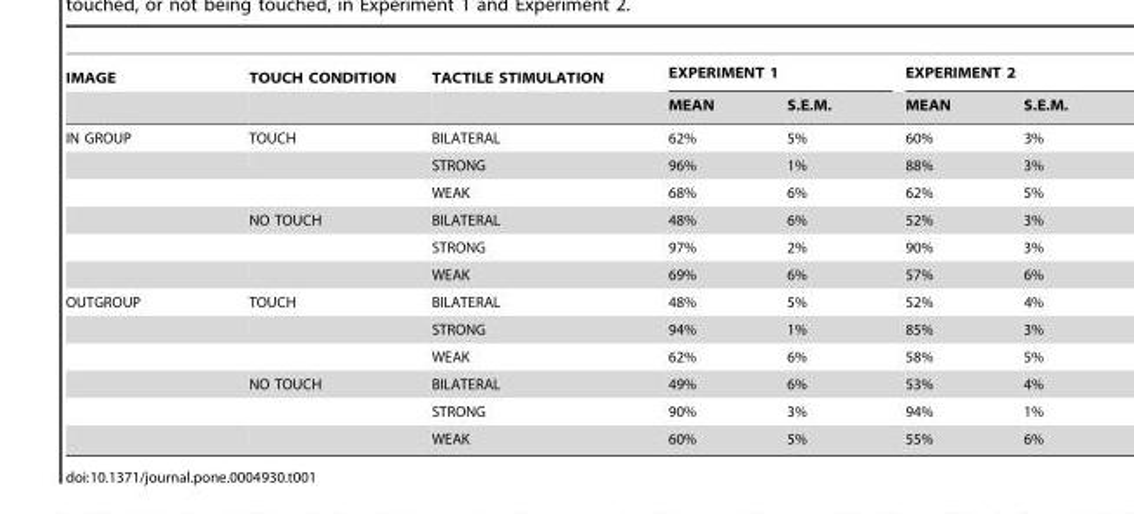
<table><thead><tr><td rowspan="2">IMAGE</td><td rowspan="2">TOUCH CONDITION</td><td rowspan="2">TACTILE STIMULATION</td><td colspan="2">EXPERIMENT 1</td><td colspan="2">EXPERIMENT 2</td></tr><tr><td>MEAN</td><td>S.E.M.</td><td>MEAN</td><td>S.E.M.</td></tr></thead><tbody><tr><td rowspan="6">IN GROUP</td><td>TOUCH</td><td>BILATERAL</td><td>62%</td><td>5%</td><td>60%</td><td>3%</td></tr><tr><td></td><td>STRONG</td><td>96%</td><td>1%</td><td>88%</td><td>3%</td></tr><tr><td></td><td>WEAK</td><td>68%</td><td>6%</td><td>62%</td><td>5%</td></tr><tr><td>NO TOUCH</td><td>BILATERAL</td><td>48%</td><td>6%</td><td>52%</td><td>3%</td></tr><tr><td></td><td>STRONG</td><td>97%</td><td>2%</td><td>90%</td><td>3%</td></tr><tr><td></td><td>WEAK</td><td>69%</td><td>6%</td><td>57%</td><td>6%</td></tr><tr><td rowspan="6">OUTGROUP</td><td>TOUCH</td><td>BILATERAL</td><td>48%</td><td>5%</td><td>52%</td><td>4%</td></tr><tr><td></td><td>STRONG</td><td>94%</td><td>1%</td><td>85%</td><td>3%</td></tr><tr><td></td><td>WEAK</td><td>62%</td><td>6%</td><td>58%</td><td>5%</td></tr><tr><td>NO TOUCH</td><td>BILATERAL</td><td>49%</td><td>6%</td><td>53%</td><td>4%</td></tr><tr><td></td><td>STRONG</td><td>90%</td><td>3%</td><td>94%</td><td>1%</td></tr><tr><td></td><td>WEAK</td><td>60%</td><td>5%</td><td>55%</td><td>6%</td></tr></tbody></table>